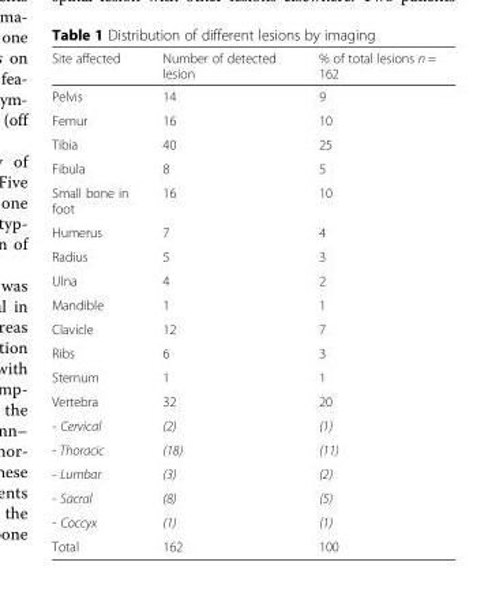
<table><thead><tr><td>Site affected</td><td>Number of detected lesion</td><td>% of total lesions n = 162</td></tr></thead><tbody><tr><td>Pelvis</td><td>14</td><td>9</td></tr><tr><td>Femur</td><td>16</td><td>10</td></tr><tr><td>Tibia</td><td>40</td><td>25</td></tr><tr><td>Fibula</td><td>8</td><td>5</td></tr><tr><td>Small bone in foot</td><td>16</td><td>10</td></tr><tr><td>Humerus</td><td>7</td><td>4</td></tr><tr><td>Radius</td><td>5</td><td>3</td></tr><tr><td>Ulna</td><td>4</td><td>2</td></tr><tr><td>Mandible</td><td>1</td><td>1</td></tr><tr><td>Clavicle</td><td>12</td><td>7</td></tr><tr><td>Ribs</td><td>6</td><td>3</td></tr><tr><td>Sternum</td><td>1</td><td>1</td></tr><tr><td>Vertebra</td><td>32</td><td>20</td></tr><tr><td>- Cervical</td><td>(2)</td><td>(1)</td></tr><tr><td>- Thoracic</td><td>(18)</td><td>(11)</td></tr><tr><td>- Lumbar</td><td>(3)</td><td>(2)</td></tr><tr><td>- Sacral</td><td>(8)</td><td>(5)</td></tr><tr><td>- Coccyx</td><td>(1)</td><td>(1)</td></tr><tr><td>Total</td><td>162</td><td>100</td></tr></tbody></table>